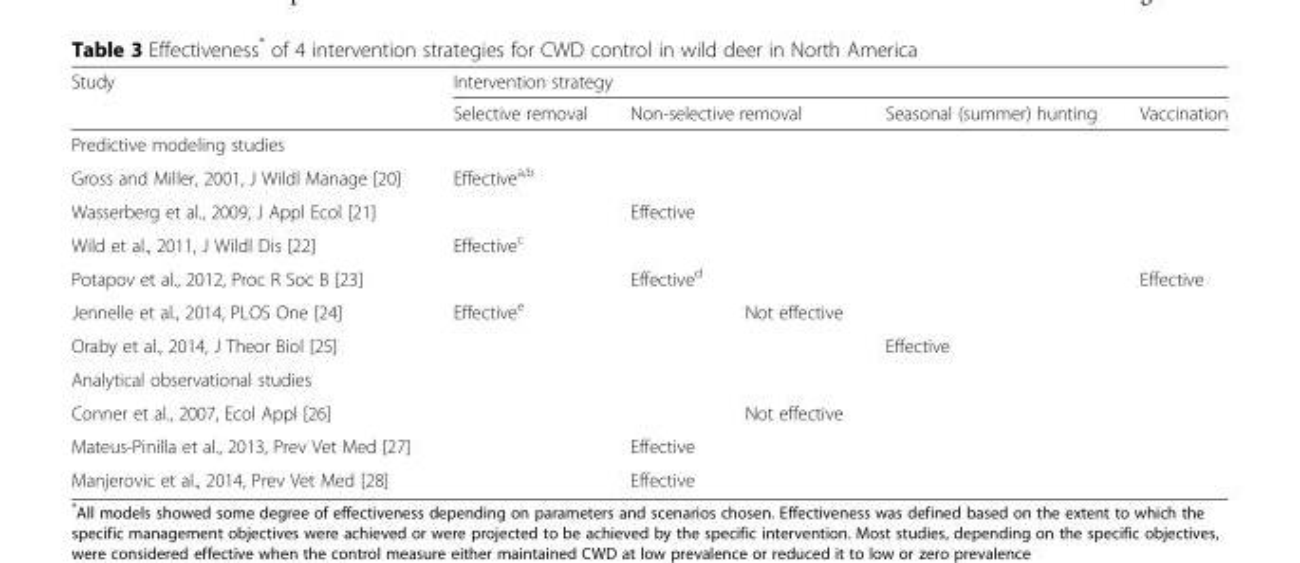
<table><thead><tr><td rowspan="4">Study Predictive modeling studies Gross and Miller, 2001, J Wildl Manage [20]</td><td colspan="5">Intervention strategy</td></tr><tr><td>Selective removal</td><td colspan="2">Non-selective removal</td><td>Seasonal (summer) hunting</td><td>Vaccination</td></tr><tr><td colspan="5"></td></tr><tr><td>Effective<sup>a,b</sup></td><td></td><td></td><td></td><td></td></tr></thead><tbody><tr><td>Wasserberg et al., 2009, J Appl Ecol [21]</td><td></td><td>Effective</td><td></td><td></td><td></td></tr><tr><td>Wild et al., 2011, J Wildl Dis [22]</td><td>Effective<sup>c</sup></td><td></td><td></td><td></td><td></td></tr><tr><td>Potapov et al., 2012, Proc R Soc B [23]</td><td></td><td>Effective<sup>d</sup></td><td></td><td></td><td>Effective</td></tr><tr><td>Jennelle et al., 2014, PLOS One [24]</td><td>Effective<sup>e</sup></td><td></td><td>Not effective</td><td></td><td></td></tr><tr><td>Oraby et al., 2014, J Theor Biol [25]</td><td></td><td></td><td></td><td>Effective</td><td></td></tr><tr><td colspan="6">Analytical observational studies</td></tr><tr><td>Conner et al., 2007, Ecol Appl [26]</td><td></td><td></td><td>Not effective</td><td></td><td></td></tr><tr><td>Mateus-Pinilla et al., 2013, Prev Vet Med [27]</td><td></td><td>Effective</td><td></td><td></td><td></td></tr><tr><td>Manjerovic et al., 2014, Prev Vet Med [28]</td><td></td><td>Effective</td><td></td><td></td><td></td></tr></tbody></table>